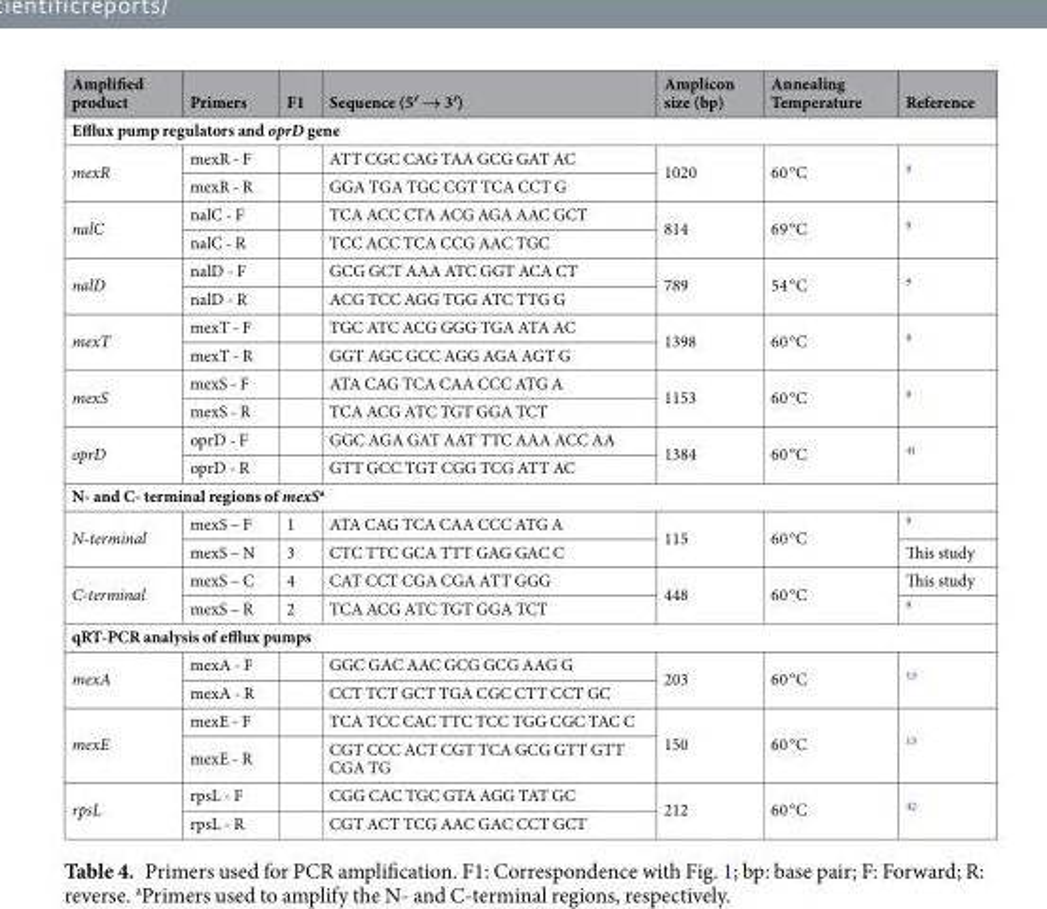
<table><thead><tr><td>Amplified product</td><td>Primers</td><td>F1</td><td>Sequence (5′ → 3′)</td><td>Amplicon size (bp)</td><td>Annealing Temperature</td><td>Reference</td></tr></thead><tbody><tr><td colspan="7">Efflux pump regulators and oprD gene</td></tr><tr><td rowspan="2">mexR</td><td>mexR - F</td><td></td><td>ATT CGC CAG TAA GCG GAT AC</td><td rowspan="2">1020</td><td rowspan="2">60 °C</td><td rowspan="2"><sup>9</sup></td></tr><tr><td>mexR - R</td><td></td><td>GGA TGA TGC CGT TCA CCT G</td></tr><tr><td rowspan="2">nalC</td><td>nalC - F</td><td></td><td>TCA ACC CTA ACG AGA AAC GCT</td><td rowspan="2">814</td><td rowspan="2">69 °C</td><td rowspan="2"><sup>9</sup></td></tr><tr><td>nalC - R</td><td></td><td>TCC ACC TCA CCG AAC TGC</td></tr><tr><td rowspan="2">nalD</td><td>nalD - F</td><td></td><td>GCG GCT AAA ATC GGT ACA CT</td><td rowspan="2">789</td><td rowspan="2">54 °C</td><td rowspan="2"><sup>9</sup></td></tr><tr><td>nalD - R</td><td></td><td>ACG TCC AGG TGG ATC TTG G</td></tr><tr><td rowspan="2">mexT</td><td>mexT - F</td><td></td><td>TGC ATC ACG GGG TGA ATA AC</td><td rowspan="2">1398</td><td rowspan="2">60 °C</td><td rowspan="2"><sup>9</sup></td></tr><tr><td>mexT - R</td><td></td><td>GGT AGC GCC AGG AGA AGT G</td></tr><tr><td rowspan="2">mexS</td><td>mexS - F</td><td></td><td>ATA CAG TCA CAA CCC ATG A</td><td rowspan="2">1153</td><td rowspan="2">60 °C</td><td rowspan="2"><sup>9</sup></td></tr><tr><td>mexS - R</td><td></td><td>TCA ACG ATC TGT GGA TCT</td></tr><tr><td rowspan="2">oprD</td><td>oprD - F</td><td></td><td>GGC AGA GAT AAT TTC AAA ACC AA</td><td rowspan="2">1384</td><td rowspan="2">60 °C</td><td rowspan="2"><sup>41</sup></td></tr><tr><td>oprD - R</td><td></td><td>GTT GCC TGT CGG TCG ATT AC</td></tr><tr><td colspan="7">N- and C- terminal regions of mexS<sup>a</sup></td></tr><tr><td rowspan="2">N-terminal</td><td>mexS – F</td><td>1</td><td>ATA CAG TCA CAA CCC ATG A</td><td rowspan="2">115</td><td rowspan="2">60 °C</td><td><sup>9</sup></td></tr><tr><td>mexS – N</td><td>3</td><td>CTC TTC GCA TTT GAG GAC C</td><td>This study</td></tr><tr><td rowspan="2">C-terminal</td><td>mexS – C</td><td>4</td><td>CAT CCT CGA CGA ATT GGG</td><td rowspan="2">448</td><td rowspan="2">60 °C</td><td>This study</td></tr><tr><td>mexS – R</td><td>2</td><td>TCA ACG ATC TGT GGA TCT</td><td><sup>9</sup></td></tr><tr><td colspan="7">qRT-PCR analysis of efflux pumps</td></tr><tr><td rowspan="2">mexA</td><td>mexA - F</td><td></td><td>GGC GAC AAC GCG GCG AAG G</td><td rowspan="2">203</td><td rowspan="2">60 °C</td><td rowspan="2"><sup>13</sup></td></tr><tr><td>mexA - R</td><td></td><td>CCT TCT GCT TGA CGC CTT CCT GC</td></tr><tr><td rowspan="2">mexE</td><td>mexE - F</td><td></td><td>TCA TCC CAC TTC TCC TGG CGC TAC C</td><td rowspan="2">150</td><td rowspan="2">60 °C</td><td rowspan="2"><sup>13</sup></td></tr><tr><td>mexE - R</td><td></td><td>CGT CCC ACT CGT TCA GCG GTT GTT CGA TG</td></tr><tr><td rowspan="2">rpsL</td><td>rpsL - F</td><td></td><td>CGG CAC TGC GTA AGG TAT GC</td><td rowspan="2">212</td><td rowspan="2">60 °C</td><td rowspan="2"><sup>42</sup></td></tr><tr><td>rpsL - R</td><td></td><td>CGT ACT TCG AAC GAC CCT GCT</td></tr></tbody></table>